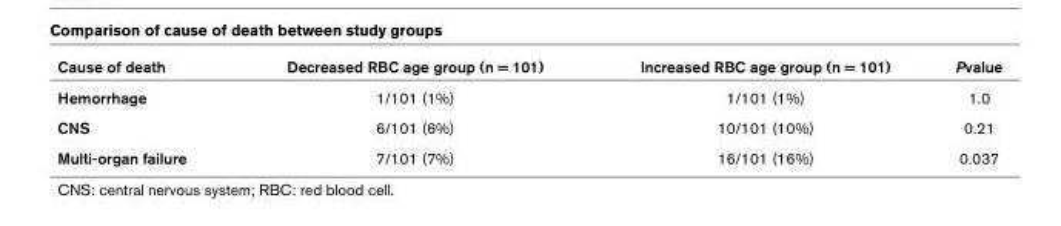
<table><thead><tr><td>Cause of death</td><td>Decreased RBC age group (n = 101)</td><td>Increased RBC age group (n = 101)</td><td>Pvalue</td></tr></thead><tbody><tr><td>Hemorrhage</td><td>1/101 (1%)</td><td>1/101 (1%)</td><td>1.0</td></tr><tr><td>CNS</td><td>6/101 (6%)</td><td>10/101 (10%)</td><td>0.21</td></tr><tr><td>Multi-organ failure</td><td>7/101 (7%)</td><td>16/101 (16%)</td><td>0.037</td></tr></tbody></table>